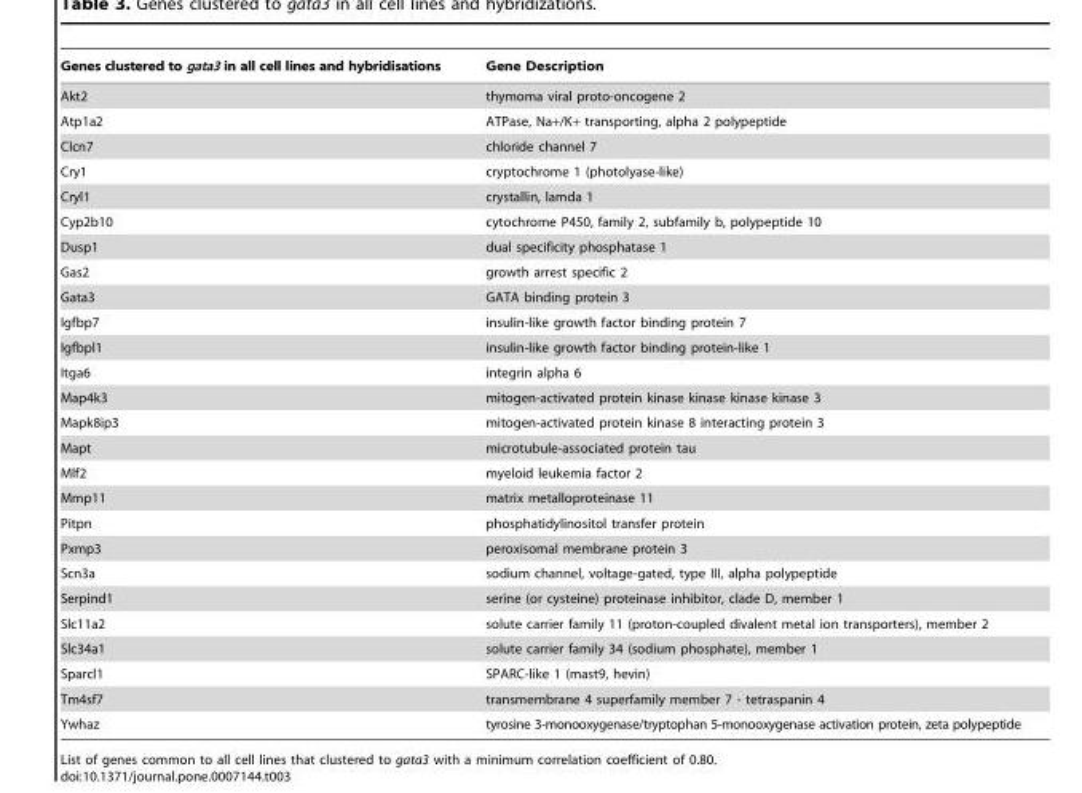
<table><thead><tr><td>Genes clustered to gata3 in all cell lines and hybridisations</td><td>Gene Description</td></tr></thead><tbody><tr><td>Akt2</td><td>thymoma viral proto-oncogene 2</td></tr><tr><td>Atp1a2</td><td>ATPase, Na+/K+ transporting, alpha 2 polypeptide</td></tr><tr><td>Clcn7</td><td>chloride channel 7</td></tr><tr><td>Cry1</td><td>cryptochrome 1 (photolyase-like)</td></tr><tr><td>Cryl1</td><td>crystallin, lamda 1</td></tr><tr><td>Cyp2b10</td><td>cytochrome P450, family 2, subfamily b, polypeptide 10</td></tr><tr><td>Dusp1</td><td>dual specificity phosphatase 1</td></tr><tr><td>Gas2</td><td>growth arrest specific 2</td></tr><tr><td>Gata3</td><td>GATA binding protein 3</td></tr><tr><td>Igfbp7</td><td>insulin-like growth factor binding protein 7</td></tr><tr><td>Igfbpl1</td><td>insulin-like growth factor binding protein-like 1</td></tr><tr><td>Itga6</td><td>integrin alpha 6</td></tr><tr><td>Map4k3</td><td>mitogen-activated protein kinase kinase kinase kinase 3</td></tr><tr><td>Mapk8ip3</td><td>mitogen-activated protein kinase 8 interacting protein 3</td></tr><tr><td>Mapt</td><td>microtubule-associated protein tau</td></tr><tr><td>Mlf2</td><td>myeloid leukemia factor 2</td></tr><tr><td>Mmp11</td><td>matrix metalloproteinase 11</td></tr><tr><td>Pitpn</td><td>phosphatidylinositol transfer protein</td></tr><tr><td>Pxmp3</td><td>peroxisomal membrane protein 3</td></tr><tr><td>Scn3a</td><td>sodium channel, voltage-gated, type III, alpha polypeptide</td></tr><tr><td>Serpind1</td><td>serine (or cysteine) proteinase inhibitor, clade D, member 1</td></tr><tr><td>Slc11a2</td><td>solute carrier family 11 (proton-coupled divalent metal ion transporters), member 2</td></tr><tr><td>Slc34a1</td><td>solute carrier family 34 (sodium phosphate), member 1</td></tr><tr><td>Sparcl1</td><td>SPARC-like 1 (mast9, hevin)</td></tr><tr><td>Tm4sf7</td><td>transmembrane 4 superfamily member 7 - tetraspanin 4</td></tr><tr><td>Ywhaz</td><td>tyrosine 3-monooxygenase/tryptophan 5-monooxygenase activation protein, zeta polypeptide</td></tr></tbody></table>